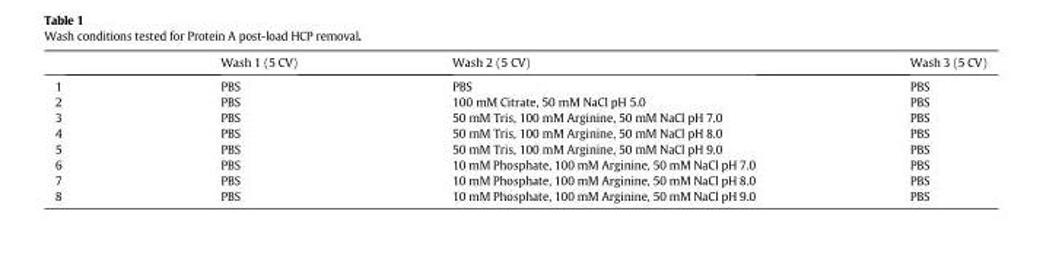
<table><thead><tr><td></td><td>Wash 1 (5 CV)</td><td>Wash 2 (5 CV)</td><td>Wash 3 (5 CV)</td></tr></thead><tbody><tr><td>1</td><td>PBS</td><td>PBS</td><td>PBS</td></tr><tr><td>2</td><td>PBS</td><td>100 mM Citrate, 50 mM NaCl pH 5.0</td><td>PBS</td></tr><tr><td>3</td><td>PBS</td><td>50 mM Tris, 100 mM Arginine, 50 mM NaCl pH 7.0</td><td>PBS</td></tr><tr><td>4</td><td>PBS</td><td>50 mM Tris, 100 mM Arginine, 50 mM NaCl pH 8.0</td><td>PBS</td></tr><tr><td>5</td><td>PBS</td><td>50 mM Tris, 100 mM Arginine, 50 mM NaCl pH 9.0</td><td>PBS</td></tr><tr><td>6</td><td>PBS</td><td>10 mM Phosphate, 100 mM Arginine, 50 mM NaCl pH 7.0</td><td>PBS</td></tr><tr><td>7</td><td>PBS</td><td>10 mM Phosphate, 100 mM Arginine, 50 mM NaCl pH 8.0</td><td>PBS</td></tr><tr><td>8</td><td>PBS</td><td>10 mM Phosphate, 100 mM Arginine, 50 mM NaCl pH 9.0</td><td>PBS</td></tr></tbody></table>